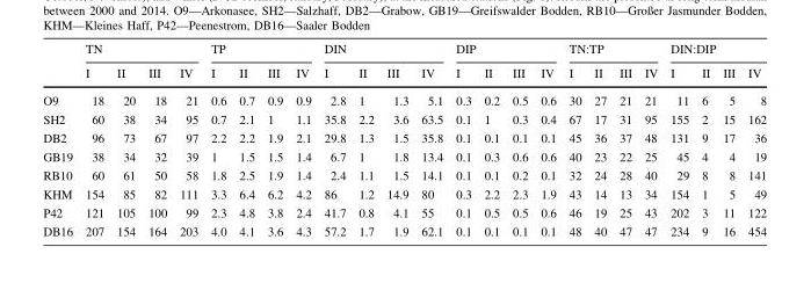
<table><thead><tr><td rowspan="2"></td><td colspan="4">TN</td><td colspan="4">TP</td><td colspan="4">DIN</td><td colspan="4">DIP</td><td colspan="4">TN:TP</td><td colspan="4">DIN:DIP</td></tr><tr><td>I</td><td>II</td><td>III</td><td>IV</td><td>I</td><td>II</td><td>III</td><td>IV</td><td>I</td><td>II</td><td>III</td><td>IV</td><td>I</td><td>II</td><td>III</td><td>IV</td><td>I</td><td>II</td><td>III</td><td>IV</td><td>I</td><td>II</td><td>III</td><td>IV</td></tr></thead><tbody><tr><td>O9</td><td>18</td><td>20</td><td>18</td><td>21</td><td>0.6</td><td>0.7</td><td>0.9</td><td>0.9</td><td>2.8</td><td>1</td><td>1.3</td><td>5.1</td><td>0.3</td><td>0.2</td><td>0.5</td><td>0.6</td><td>30</td><td>27</td><td>21</td><td>21</td><td>11</td><td>6</td><td>5</td><td>8</td></tr><tr><td>SH2</td><td>60</td><td>38</td><td>34</td><td>95</td><td>0.7</td><td>2.1</td><td>1</td><td>1.1</td><td>35.8</td><td>2.2</td><td>3.6</td><td>63.5</td><td>0.1</td><td>1</td><td>0.3</td><td>0.4</td><td>67</td><td>17</td><td>31</td><td>95</td><td>155</td><td>2</td><td>15</td><td>162</td></tr><tr><td>DB2</td><td>96</td><td>73</td><td>67</td><td>97</td><td>2.2</td><td>2.2</td><td>1.9</td><td>2.1</td><td>29.8</td><td>1.3</td><td>1.5</td><td>35.8</td><td>0.1</td><td>0.1</td><td>0.1</td><td>0.1</td><td>45</td><td>36</td><td>37</td><td>48</td><td>131</td><td>9</td><td>17</td><td>36</td></tr><tr><td>GB19</td><td>38</td><td>34</td><td>32</td><td>39</td><td>1</td><td>1.5</td><td>1.5</td><td>1.4</td><td>6.7</td><td>1</td><td>1.8</td><td>13.4</td><td>0.1</td><td>0.3</td><td>0.6</td><td>0.6</td><td>40</td><td>23</td><td>22</td><td>25</td><td>45</td><td>4</td><td>4</td><td>19</td></tr><tr><td>RB10</td><td>60</td><td>61</td><td>50</td><td>58</td><td>1.8</td><td>2.5</td><td>1.9</td><td>1.4</td><td>2.4</td><td>1.1</td><td>1.5</td><td>14.1</td><td>0.1</td><td>0.1</td><td>0.2</td><td>0.1</td><td>32</td><td>24</td><td>28</td><td>40</td><td>29</td><td>8</td><td>8</td><td>141</td></tr><tr><td>KHM</td><td>154</td><td>85</td><td>82</td><td>111</td><td>3.3</td><td>6.4</td><td>6.2</td><td>4.2</td><td>86</td><td>1.2</td><td>14.9</td><td>80</td><td>0.3</td><td>2.2</td><td>2.3</td><td>1.9</td><td>43</td><td>14</td><td>13</td><td>34</td><td>154</td><td>1</td><td>5</td><td>49</td></tr><tr><td>P42</td><td>121</td><td>105</td><td>100</td><td>99</td><td>2.3</td><td>4.8</td><td>3.8</td><td>2.4</td><td>41.7</td><td>0.8</td><td>4.1</td><td>55</td><td>0.1</td><td>0.5</td><td>0.5</td><td>0.6</td><td>46</td><td>19</td><td>25</td><td>43</td><td>202</td><td>3</td><td>11</td><td>122</td></tr><tr><td>DB16</td><td>207</td><td>154</td><td>164</td><td>203</td><td>4.0</td><td>4.1</td><td>3.6</td><td>4.3</td><td>57.2</td><td>1.7</td><td>1.9</td><td>62.1</td><td>0.1</td><td>0.1</td><td>0.1</td><td>0.1</td><td>48</td><td>40</td><td>47</td><td>47</td><td>234</td><td>9</td><td>16</td><td>454</td></tr></tbody></table>